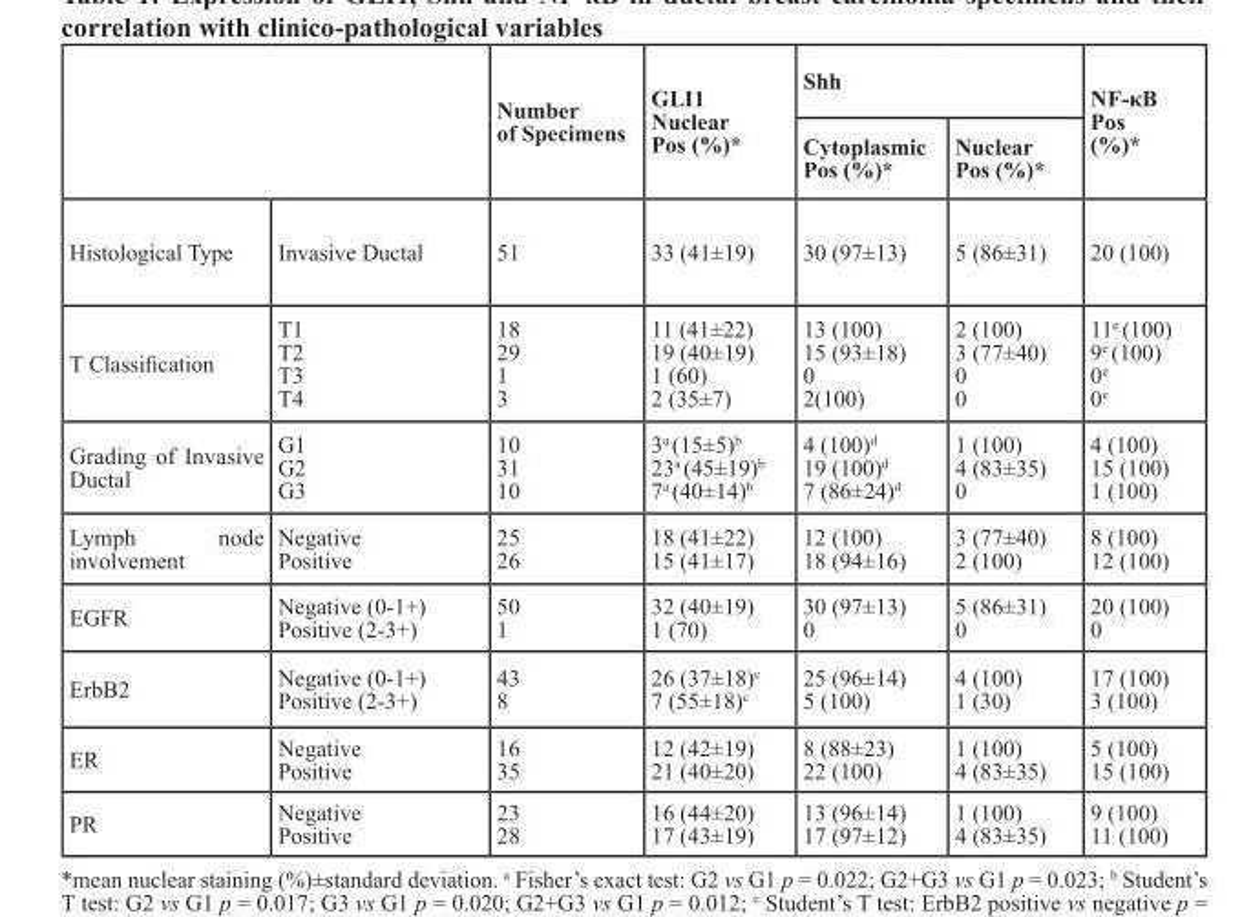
<table><thead><tr><td rowspan="2"></td><td rowspan="2"></td><td rowspan="2">Number of Specimens</td><td rowspan="2">GLI1 Nuclear Pos (%)*</td><td colspan="2">Shh</td><td rowspan="2">NF-κB Pos (%)*</td></tr><tr><td>Cytoplasmic Pos (%)*</td><td>Nuclear Pos (%)*</td></tr></thead><tbody><tr><td>Histological Type</td><td>Invasive Ductal</td><td>51</td><td>33 (41±19)</td><td>30 (97±13)</td><td>5 (86±31)</td><td>20 (100)</td></tr><tr><td>T Classification</td><td>T1 T2 T3 T4</td><td>18 29 1 3</td><td>11 (41±22) 19 (40±19) 1 (60) 2 (35±7)</td><td>13 (100) 15 (93±18) 0 2(100)</td><td>2 (100) 3 (77±40) 0 0</td><td>11<sup>e</sup> (100) 9<sup>e</sup> (100) 0<sup>e</sup> 0<sup>e</sup></td></tr><tr><td>Grading of Invasive Ductal</td><td>G1 G2 G3</td><td>10 31 10</td><td>3<sup>a</sup> (15±5)<sup>b</sup> 23<sup>a</sup> (45±19)<sup>b</sup> 7<sup>a</sup> (40±14)<sup>b</sup></td><td>4 (100)<sup>d</sup> 19 (100)<sup>d</sup> 7 (86±24)<sup>d</sup></td><td>1 (100) 4 (83±35) 0</td><td>4 (100) 15 (100) 1 (100)</td></tr><tr><td>Lymph node involvement</td><td>Negative Positive</td><td>25 26</td><td>18 (41±22) 15 (41±17)</td><td>12 (100) 18 (94±16)</td><td>3 (77±40) 2 (100)</td><td>8 (100) 12 (100)</td></tr><tr><td>EGFR</td><td>Negative (0-1+) Positive (2-3+)</td><td>50 1</td><td>32 (40±19) 1 (70)</td><td>30 (97±13) 0</td><td>5 (86±31) 0</td><td>20 (100) 0</td></tr><tr><td>ErbB2</td><td>Negative (0-1+) Positive (2-3+)</td><td>43 8</td><td>26 (37±18)<sup>c</sup> 7 (55±18)<sup>c</sup></td><td>25 (96±14) 5 (100)</td><td>4 (100) 1 (30)</td><td>17 (100) 3 (100)</td></tr><tr><td>ER</td><td>Negative Positive</td><td>16 35</td><td>12 (42±19) 21 (40±20)</td><td>8 (88±23) 22 (100)</td><td>1 (100) 4 (83±35)</td><td>5 (100) 15 (100)</td></tr><tr><td>PR</td><td>Negative Positive</td><td>23 28</td><td>16 (44±20) 17 (43±19)</td><td>13 (96±14) 17 (97±12)</td><td>1 (100) 4 (83±35)</td><td>9 (100) 11 (100)</td></tr></tbody></table>